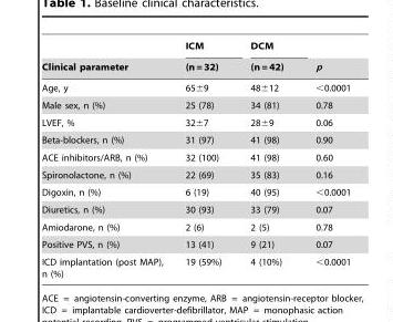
<table><thead><tr><td rowspan="2">Clinical parameter</td><td rowspan="2">ICM (n = 32)</td><td rowspan="2">DCM (n = 42)</td><td rowspan="2">p</td></tr><tr></tr></thead><tbody><tr><td>Age, y</td><td>65±9</td><td>48±12</td><td>&lt;0.0001</td></tr><tr><td>Male sex, n (%)</td><td>25 (78)</td><td>34 (81)</td><td>0.78</td></tr><tr><td>LVEF, %</td><td>32±7</td><td>28±9</td><td>0.06</td></tr><tr><td>Beta-blockers, n (%)</td><td>31 (97)</td><td>41 (98)</td><td>0.90</td></tr><tr><td>ACE inhibitors/ARB, n (%)</td><td>32 (100)</td><td>41 (98)</td><td>0.60</td></tr><tr><td>Spironolactone, n (%)</td><td>22 (69)</td><td>35 (83)</td><td>0.16</td></tr><tr><td>Digoxin, n (%)</td><td>6 (19)</td><td>40 (95)</td><td>&lt;0.0001</td></tr><tr><td>Diuretics, n (%)</td><td>30 (93)</td><td>33 (79)</td><td>0.07</td></tr><tr><td>Amiodarone, n (%)</td><td>2 (6)</td><td>2 (5)</td><td>0.78</td></tr><tr><td>Positive PVS, n (%)</td><td>13 (41)</td><td>9 (21)</td><td>0.07</td></tr><tr><td>ICD implantation (post MAP), n (%)</td><td>19 (59%)</td><td>4 (10%)</td><td>&lt;0.0001</td></tr></tbody></table>